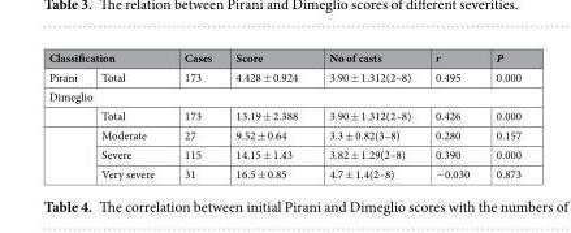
<table><thead><tr><td colspan="2">Classification</td><td rowspan="2">Cases 173</td><td rowspan="2">Score 4.428 ± 0.924</td><td rowspan="2">No of casts 3.90 ± 1.312(2–8)</td><td rowspan="2">r 0.495</td><td rowspan="2">P 0.000</td></tr><tr><td>Pirani</td><td>Total</td></tr></thead><tbody><tr><td colspan="7">Dimeglio</td></tr><tr><td></td><td>Total</td><td>173</td><td>13.19 ± 2.388</td><td>3.90 ± 1.312(2–8)</td><td>0.426</td><td>0.000</td></tr><tr><td rowspan="3"></td><td>Moderate</td><td>27</td><td>9.52 ± 0.64</td><td>3.3 ± 0.82(3–8)</td><td>0.280</td><td>0.157</td></tr><tr><td>Severe</td><td>115</td><td>14.15 ± 1.43</td><td>3.82 ± 1.29(2–8)</td><td>0.390</td><td>0.000</td></tr><tr><td>Very severe</td><td>31</td><td>16.5 ± 0.85</td><td>4.7 ± 1.4(2–8)</td><td>−0.030</td><td>0.873</td></tr></tbody></table>